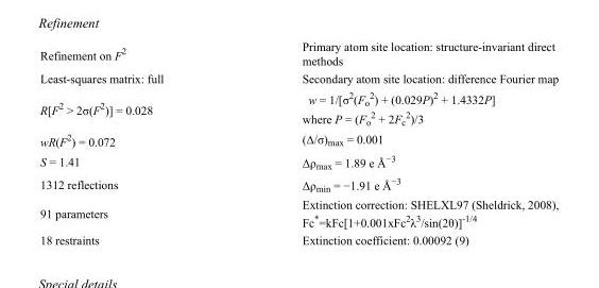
<table><tbody><tr><td>Refinement on F<sup>2</sup></td><td>Primary atom site location: structure-invariant direct methods</td></tr><tr><td>Least-squares matrix: full</td><td>Secondary atom site location: difference Fourier map</td></tr><tr><td>R[F<sup>2</sup> &gt; 2σ(F<sup>2</sup>)] = 0.028</td><td>w = 1/[σ<sup>2</sup>(F<sub>o</sub> <sup>2</sup>) + (0.029P)<sup>2</sup> + 1.4332P] where P = (F<sub>o</sub> <sup>2</sup> + 2F<sub>c</sub> <sup>2</sup>)/3</td></tr><tr><td>wR(F<sup>2</sup>) = 0.072</td><td>(Δ/σ)<sub>max</sub> = 0.001</td></tr><tr><td>S = 1.41</td><td>Δρ<sub>max</sub> = 1.89 e Å<sup>−3</sup></td></tr><tr><td>1312 reflections</td><td>Δρ<sub>min</sub> = −1.91 e Å<sup>−3</sup></td></tr><tr><td>91 parameters</td><td>Extinction correction: SHELXL97 (Sheldrick, 2008), Fc*=kFc[1+0.001xFc<sup>2</sup>λ<sup>3</sup>/sin(2θ)]<sup>-1/4</sup></td></tr><tr><td>18 restraints</td><td>Extinction coefficient: 0.00092 (9)</td></tr></tbody></table>